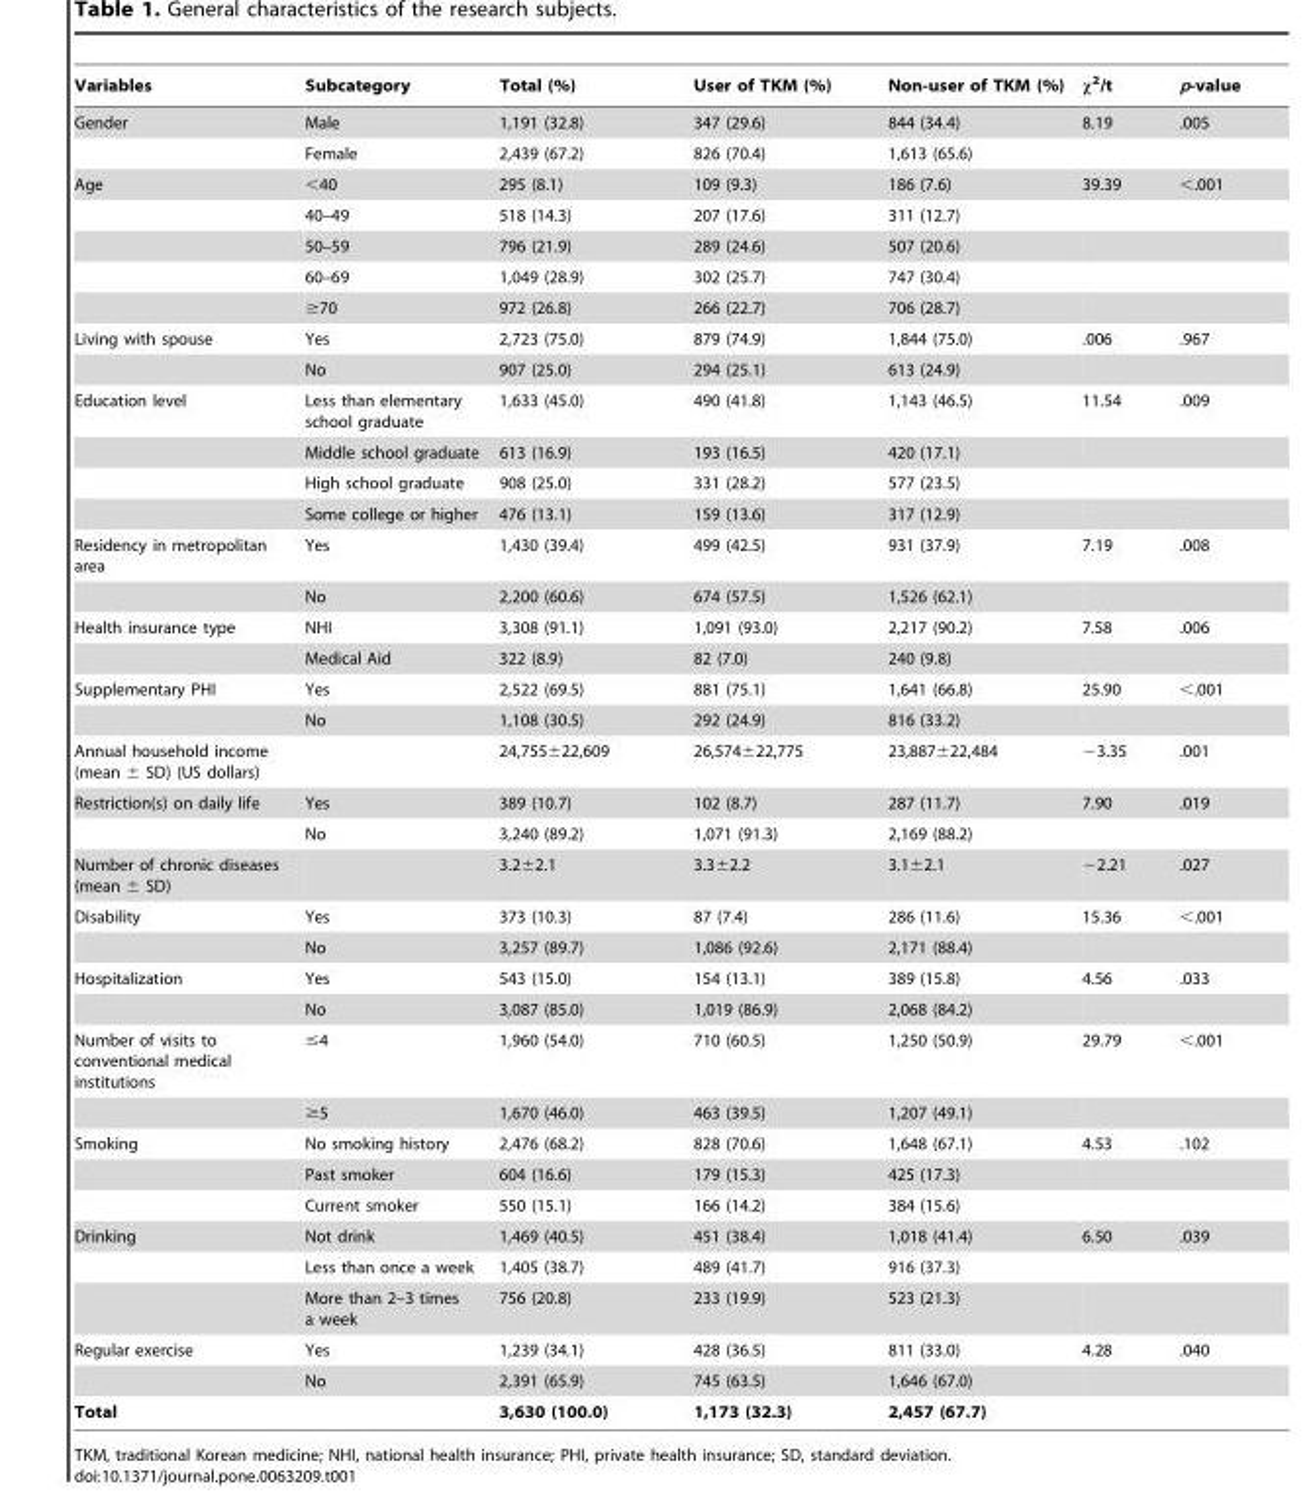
<table><thead><tr><td>Variables</td><td>Subcategory</td><td>Total (%)</td><td>User of TKM (%)</td><td>Non-user of TKM (%)</td><td>χ<sup>2</sup>/t</td><td>p-value</td></tr></thead><tbody><tr><td rowspan="2">Gender</td><td>Male</td><td>1,191 (32.8)</td><td>347 (29.6)</td><td>844 (34.4)</td><td>8.19</td><td>.005</td></tr><tr><td>Female</td><td>2,439 (67.2)</td><td>826 (70.4)</td><td>1,613 (65.6)</td><td></td><td></td></tr><tr><td rowspan="5">Age</td><td>&lt;40</td><td>295 (8.1)</td><td>109 (9.3)</td><td>186 (7.6)</td><td>39.39</td><td>&lt;.001</td></tr><tr><td>40–49</td><td>518 (14.3)</td><td>207 (17.6)</td><td>311 (12.7)</td><td></td><td></td></tr><tr><td>50–59</td><td>796 (21.9)</td><td>289 (24.6)</td><td>507 (20.6)</td><td></td><td></td></tr><tr><td>60–69</td><td>1,049 (28.9)</td><td>302 (25.7)</td><td>747 (30.4)</td><td></td><td></td></tr><tr><td>≥70</td><td>972 (26.8)</td><td>266 (22.7)</td><td>706 (28.7)</td><td></td><td></td></tr><tr><td rowspan="2">Living with spouse</td><td>Yes</td><td>2,723 (75.0)</td><td>879 (74.9)</td><td>1,844 (75.0)</td><td>.006</td><td>.967</td></tr><tr><td>No</td><td>907 (25.0)</td><td>294 (25.1)</td><td>613 (24.9)</td><td></td><td></td></tr><tr><td rowspan="4">Education level</td><td>Less than elementary school graduate</td><td>1,633 (45.0)</td><td>490 (41.8)</td><td>1,143 (46.5)</td><td>11.54</td><td>.009</td></tr><tr><td>Middle school graduate</td><td>613 (16.9)</td><td>193 (16.5)</td><td>420 (17.1)</td><td></td><td></td></tr><tr><td>High school graduate</td><td>908 (25.0)</td><td>331 (28.2)</td><td>577 (23.5)</td><td></td><td></td></tr><tr><td>Some college or higher</td><td>476 (13.1)</td><td>159 (13.6)</td><td>317 (12.9)</td><td></td><td></td></tr><tr><td rowspan="2">Residency in metropolitan area</td><td>Yes</td><td>1,430 (39.4)</td><td>499 (42.5)</td><td>931 (37.9)</td><td>7.19</td><td>.008</td></tr><tr><td>No</td><td>2,200 (60.6)</td><td>674 (57.5)</td><td>1,526 (62.1)</td><td></td><td></td></tr><tr><td rowspan="2">Health insurance type</td><td>NHI</td><td>3,308 (91.1)</td><td>1,091 (93.0)</td><td>2,217 (90.2)</td><td>7.58</td><td>.006</td></tr><tr><td>Medical Aid</td><td>322 (8.9)</td><td>82 (7.0)</td><td>240 (9.8)</td><td></td><td></td></tr><tr><td rowspan="2">Supplementary PHI</td><td>Yes</td><td>2,522 (69.5)</td><td>881 (75.1)</td><td>1,641 (66.8)</td><td>25.90</td><td>&lt;.001</td></tr><tr><td>No</td><td>1,108 (30.5)</td><td>292 (24.9)</td><td>816 (33.2)</td><td></td><td></td></tr><tr><td>Annual household income (mean ± SD) (US dollars)</td><td></td><td>24,755±22,609</td><td>26,574±22,775</td><td>23,887±22,484</td><td>−3.35</td><td>.001</td></tr><tr><td rowspan="2">Restriction(s) on daily life</td><td>Yes</td><td>389 (10.7)</td><td>102 (8.7)</td><td>287 (11.7)</td><td>7.90</td><td>.019</td></tr><tr><td>No</td><td>3,240 (89.2)</td><td>1,071 (91.3)</td><td>2,169 (88.2)</td><td></td><td></td></tr><tr><td>Number of chronic diseases (mean ± SD)</td><td></td><td>3.2±2.1</td><td>3.3±2.2</td><td>3.1±2.1</td><td>−2.21</td><td>.027</td></tr><tr><td rowspan="2">Disability</td><td>Yes</td><td>373 (10.3)</td><td>87 (7.4)</td><td>286 (11.6)</td><td>15.36</td><td>&lt;.001</td></tr><tr><td>No</td><td>3,257 (89.7)</td><td>1,086 (92.6)</td><td>2,171 (88.4)</td><td></td><td></td></tr><tr><td rowspan="2">Hospitalization</td><td>Yes</td><td>543 (15.0)</td><td>154 (13.1)</td><td>389 (15.8)</td><td>4.56</td><td>.033</td></tr><tr><td>No</td><td>3,087 (85.0)</td><td>1,019 (86.9)</td><td>2,068 (84.2)</td><td></td><td></td></tr><tr><td rowspan="2">Number of visits to conventional medical institutions</td><td>≤4</td><td>1,960 (54.0)</td><td>710 (60.5)</td><td>1,250 (50.9)</td><td>29.79</td><td>&lt;.001</td></tr><tr><td>≥5</td><td>1,670 (46.0)</td><td>463 (39.5)</td><td>1,207 (49.1)</td><td></td><td></td></tr><tr><td rowspan="3">Smoking</td><td>No smoking history</td><td>2,476 (68.2)</td><td>828 (70.6)</td><td>1,648 (67.1)</td><td>4.53</td><td>.102</td></tr><tr><td>Past smoker</td><td>604 (16.6)</td><td>179 (15.3)</td><td>425 (17.3)</td><td></td><td></td></tr><tr><td>Current smoker</td><td>550 (15.1)</td><td>166 (14.2)</td><td>384 (15.6)</td><td></td><td></td></tr><tr><td rowspan="3">Drinking</td><td>Not drink</td><td>1,469 (40.5)</td><td>451 (38.4)</td><td>1,018 (41.4)</td><td>6.50</td><td>.039</td></tr><tr><td>Less than once a week</td><td>1,405 (38.7)</td><td>489 (41.7)</td><td>916 (37.3)</td><td></td><td></td></tr><tr><td>More than 2–3 times a week</td><td>756 (20.8)</td><td>233 (19.9)</td><td>523 (21.3)</td><td></td><td></td></tr><tr><td rowspan="2">Regular exercise</td><td>Yes</td><td>1,239 (34.1)</td><td>428 (36.5)</td><td>811 (33.0)</td><td>4.28</td><td>.040</td></tr><tr><td>No</td><td>2,391 (65.9)</td><td>745 (63.5)</td><td>1,646 (67.0)</td><td></td><td></td></tr><tr><td>Total</td><td></td><td>3,630 (100.0)</td><td>1,173 (32.3)</td><td>2,457 (67.7)</td><td></td><td></td></tr></tbody></table>